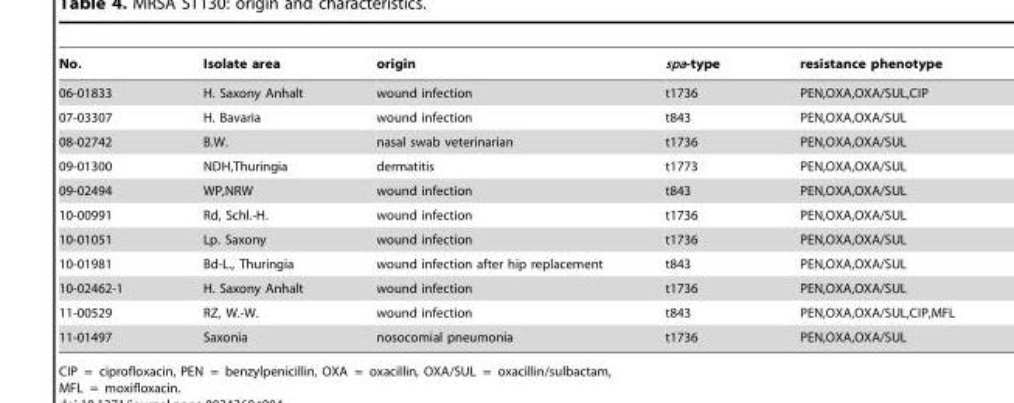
<table><thead><tr><td>No.</td><td>Isolate area</td><td>origin</td><td>spa-type</td><td>resistance phenotype</td></tr></thead><tbody><tr><td>06-01833</td><td>H. Saxony Anhalt</td><td>wound infection</td><td>t1736</td><td>PEN,OXA,OXA/SUL,CIP</td></tr><tr><td>07-03307</td><td>H. Bavaria</td><td>wound infection</td><td>t843</td><td>PEN,OXA,OXA/SUL</td></tr><tr><td>08-02742</td><td>B.W.</td><td>nasal swab veterinarian</td><td>t1736</td><td>PEN,OXA,OXA/SUL</td></tr><tr><td>09-01300</td><td>NDH,Thuringia</td><td>dermatitis</td><td>t1773</td><td>PEN,OXA,OXA/SUL</td></tr><tr><td>09-02494</td><td>WP,NRW</td><td>wound infection</td><td>t843</td><td>PEN,OXA,OXA/SUL</td></tr><tr><td>10-00991</td><td>Rd, Schl.-H.</td><td>wound infection</td><td>t1736</td><td>PEN,OXA,OXA/SUL</td></tr><tr><td>10-01051</td><td>Lp. Saxony</td><td>wound infection</td><td>t1736</td><td>PEN,OXA,OXA/SUL</td></tr><tr><td>10-01981</td><td>Bd-L., Thuringia</td><td>wound infection after hip replacement</td><td>t843</td><td>PEN,OXA,OXA/SUL</td></tr><tr><td>10-02462-1</td><td>H. Saxony Anhalt</td><td>wound infection</td><td>t1736</td><td>PEN,OXA,OXA/SUL</td></tr><tr><td>11-00529</td><td>RZ, W.-W.</td><td>wound infection</td><td>t843</td><td>PEN,OXA,OXA/SUL,CIP,MFL</td></tr><tr><td>11-01497</td><td>Saxonia</td><td>nosocomial pneumonia</td><td>t1736</td><td>PEN,OXA,OXA/SUL</td></tr></tbody></table>